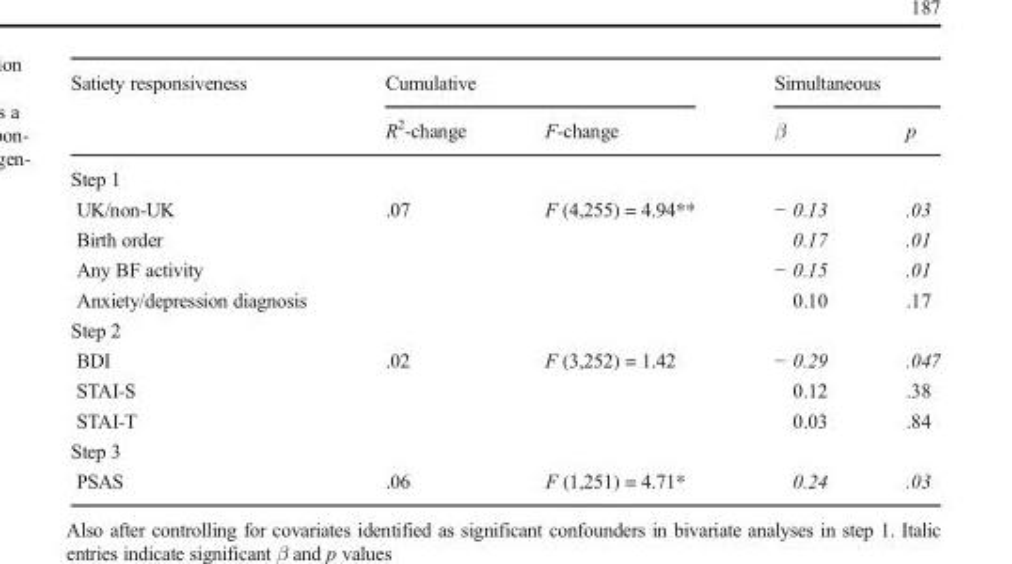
<table><thead><tr><td rowspan="2">Satiety responsiveness</td><td colspan="2">Cumulative</td><td colspan="2">Simultaneous</td></tr><tr><td>R<sup>2</sup>-change</td><td>F-change</td><td>β</td><td>p</td></tr></thead><tbody><tr><td colspan="5">Step 1</td></tr><tr><td>UK/non-UK</td><td rowspan="4">.07</td><td rowspan="4">F (4,255) = 4.94**</td><td>− 0.13</td><td>.03</td></tr><tr><td>Birth order</td><td>0.17</td><td>.01</td></tr><tr><td>Any BF activity</td><td>− 0.15</td><td>.01</td></tr><tr><td>Anxiety/depression diagnosis</td><td>0.10</td><td>.17</td></tr><tr><td colspan="5">Step 2</td></tr><tr><td>BDI</td><td rowspan="3">.02</td><td rowspan="3">F (3,252) = 1.42</td><td>− 0.29</td><td>.047</td></tr><tr><td>STAI-S</td><td>0.12</td><td>.38</td></tr><tr><td>STAI-T</td><td>0.03</td><td>.84</td></tr><tr><td colspan="5">Step 3</td></tr><tr><td>PSAS</td><td>.06</td><td>F (1,251) = 4.71*</td><td>0.24</td><td>.03</td></tr></tbody></table>